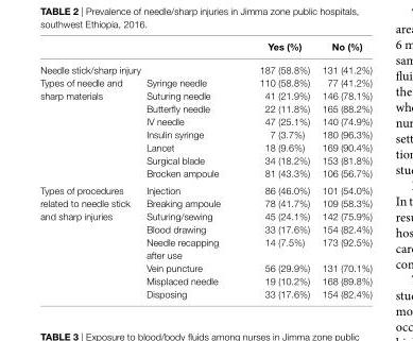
<table><thead><tr><td></td><td></td><td>Yes (%)</td><td>no (%)</td></tr></thead><tbody><tr><td colspan="2">Needle stick/sharp injury</td><td>187 (58.8%)</td><td>131 (41.2%)</td></tr><tr><td rowspan="8">Types of needle and sharp materials</td><td>Syringe needle</td><td>110 (58.8%)</td><td>77 (41.2%)</td></tr><tr><td>Suturing needle</td><td>41 (21.9%)</td><td>146 (78.1%)</td></tr><tr><td>Butterfly needle</td><td>22 (11.8%)</td><td>165 (88.2%)</td></tr><tr><td>IV needle</td><td>47 (25.1%)</td><td>140 (74.9%)</td></tr><tr><td>Insulin syringe</td><td>7 (3.7%)</td><td>180 (96.3%)</td></tr><tr><td>Lancet</td><td>18 (9.6%)</td><td>169 (90.4%)</td></tr><tr><td>Surgical blade</td><td>34 (18.2%)</td><td>153 (81.8%)</td></tr><tr><td>Brocken ampoule</td><td>81 (43.3%)</td><td>106 (56.7%)</td></tr><tr><td rowspan="8">Types of procedures related to needle stick and sharp injuries</td><td>Injection</td><td>86 (46.0%)</td><td>101 (54.0%)</td></tr><tr><td>Breaking ampoule</td><td>78 (41.7%)</td><td>109 (58.3%)</td></tr><tr><td>Suturing/sewing</td><td>45 (24.1%)</td><td>142 (75.9%)</td></tr><tr><td>Blood drawing</td><td>33 (17.6%)</td><td>154 (82.4%)</td></tr><tr><td>Needle recapping after use</td><td>14 (7.5%)</td><td>173 (92.5%)</td></tr><tr><td>Vein puncture</td><td>56 (29.9%)</td><td>131 (70.1%)</td></tr><tr><td>Misplaced needle</td><td>19 (10.2%)</td><td>168 (89.8%)</td></tr><tr><td>Disposing</td><td>33 (17.6%)</td><td>154 (82.4%)</td></tr></tbody></table>